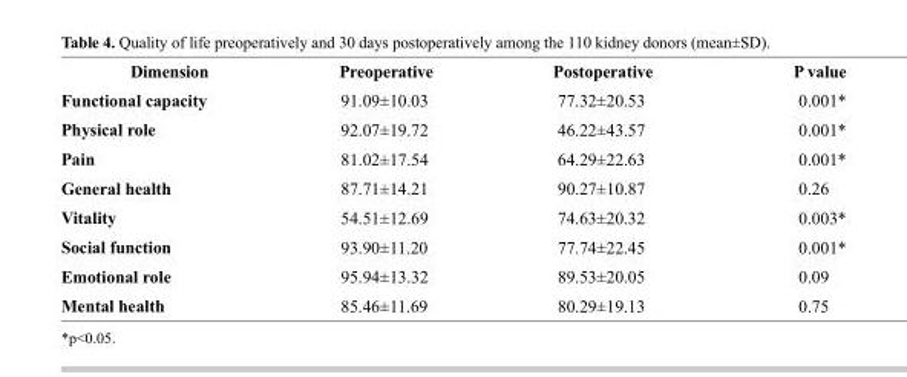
<table><thead><tr><td>Dimension</td><td>Preoperative</td><td>Postoperative</td><td>P value</td></tr></thead><tbody><tr><td>Functional capacity</td><td>91.09±10.03</td><td>77.32±20.53</td><td>0.001*</td></tr><tr><td>Physical role</td><td>92.07±19.72</td><td>46.22±43.57</td><td>0.001*</td></tr><tr><td>Pain</td><td>81.02±17.54</td><td>64.29±22.63</td><td>0.001*</td></tr><tr><td>General health</td><td>87.71±14.21</td><td>90.27±10.87</td><td>0.26</td></tr><tr><td>Vitality</td><td>54.51±12.69</td><td>74.63±20.32</td><td>0.003*</td></tr><tr><td>Social function</td><td>93.90±11.20</td><td>77.74±22.45</td><td>0.001*</td></tr><tr><td>Emotional role</td><td>95.94±13.32</td><td>89.53±20.05</td><td>0.09</td></tr><tr><td>Mental health</td><td>85.46±11.69</td><td>80.29±19.13</td><td>0.75</td></tr></tbody></table>